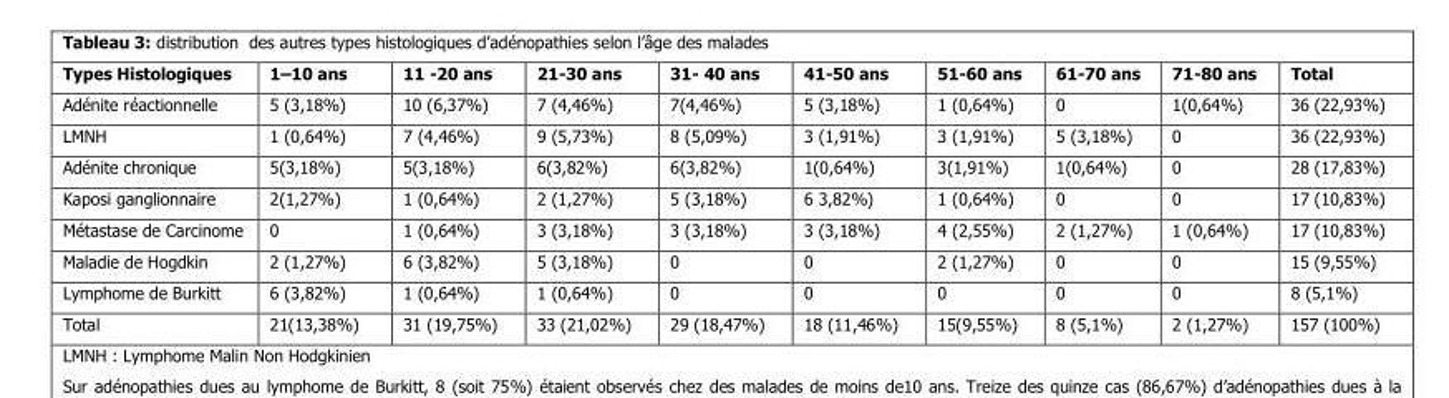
<table><thead><tr><td>Types Histologiques</td><td>1–10 ans</td><td>11 -20 ans</td><td>21-30 ans</td><td>31- 40 ans</td><td>41-50 ans</td><td>51-60 ans</td><td>61-70 ans</td><td>71-80 ans</td><td>Total</td></tr></thead><tbody><tr><td>Adénite réactionnelle</td><td>5 (3,18%)</td><td>10 (6,37%)</td><td>7 (4,46%)</td><td>7(4,46%)</td><td>5 (3,18%)</td><td>1 (0,64%)</td><td>0</td><td>1(0,64%)</td><td>36 (22,93%)</td></tr><tr><td>LMNH</td><td>1 (0,64%)</td><td>7 (4,46%)</td><td>9 (5,73%)</td><td>8 (5,09%)</td><td>3 (1,91%)</td><td>3 (1,91%)</td><td>5 (3,18%)</td><td>0</td><td>36 (22,93%)</td></tr><tr><td>Adénite chronique</td><td>5(3,18%)</td><td>5(3,18%)</td><td>6(3,82%)</td><td>6(3,82%)</td><td>1(0,64%)</td><td>3(1,91%)</td><td>1(0,64%)</td><td>0</td><td>28 (17,83%)</td></tr><tr><td>Kaposi ganglionnaire</td><td>2(1,27%)</td><td>1 (0,64%)</td><td>2 (1,27%)</td><td>5 (3,18%)</td><td>6 3,82%)</td><td>1 (0,64%)</td><td>0</td><td>0</td><td>17 (10,83%)</td></tr><tr><td>Métastase de Carcinome</td><td>0</td><td>1 (0,64%)</td><td>3 (3,18%)</td><td>3 (3,18%)</td><td>3 (3,18%)</td><td>4 (2,55%)</td><td>2 (1,27%)</td><td>1 (0,64%)</td><td>17 (10,83%)</td></tr><tr><td>Maladie de Hogdkin</td><td>2 (1,27%)</td><td>6 (3,82%)</td><td>5 (3,18%)</td><td>0</td><td>0</td><td>2 (1,27%)</td><td>0</td><td>0</td><td>15 (9,55%)</td></tr><tr><td>Lymphome de Burkitt</td><td>6 (3,82%)</td><td>1 (0,64%)</td><td>1 (0,64%)</td><td>0</td><td>0</td><td>0</td><td>0</td><td>0</td><td>8 (5,1%)</td></tr><tr><td>Total</td><td>21(13,38%)</td><td>31 (19,75%)</td><td>33 (21,02%)</td><td>29 (18,47%)</td><td>18 (11,46%)</td><td>15(9,55%)</td><td>8 (5,1%)</td><td>2 (1,27%)</td><td>157 (100%)</td></tr></tbody></table>